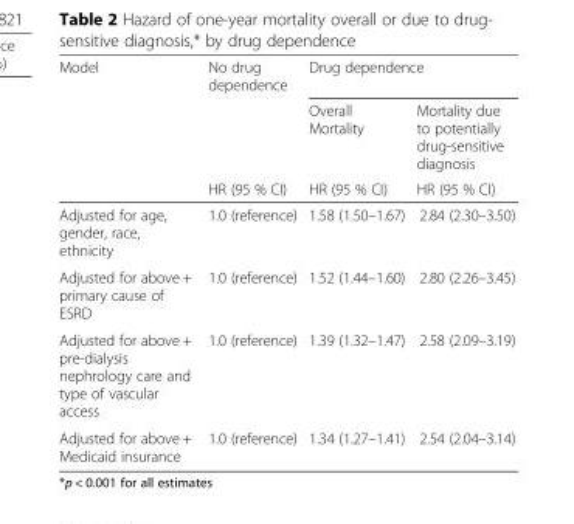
<table><thead><tr><td rowspan="3">Model</td><td rowspan="3">No drug dependence HR (95 % CI)</td><td colspan="2">Drug dependence</td></tr><tr><td rowspan="2">Overall Mortality HR (95 % CI)</td><td rowspan="2">Mortality due to potentially drug-sensitive diagnosis HR (95 % CI)</td></tr><tr></tr></thead><tbody><tr><td>Adjusted for age, gender, race, ethnicity</td><td>1.0 (reference)</td><td>1.58 (1.50–1.67)</td><td>2.84 (2.30–3.50)</td></tr><tr><td>Adjusted for above + primary cause of ESRD</td><td>1.0 (reference)</td><td>1.52 (1.44–1.60)</td><td>2.80 (2.26–3.45)</td></tr><tr><td>Adjusted for above + pre-dialysis nephrology care and type of vascular access</td><td>1.0 (reference)</td><td>1.39 (1.32–1.47)</td><td>2.58 (2.09–3.19)</td></tr><tr><td>Adjusted for above + Medicaid insurance</td><td>1.0 (reference)</td><td>1.34 (1.27–1.41)</td><td>2.54 (2.04–3.14)</td></tr></tbody></table>